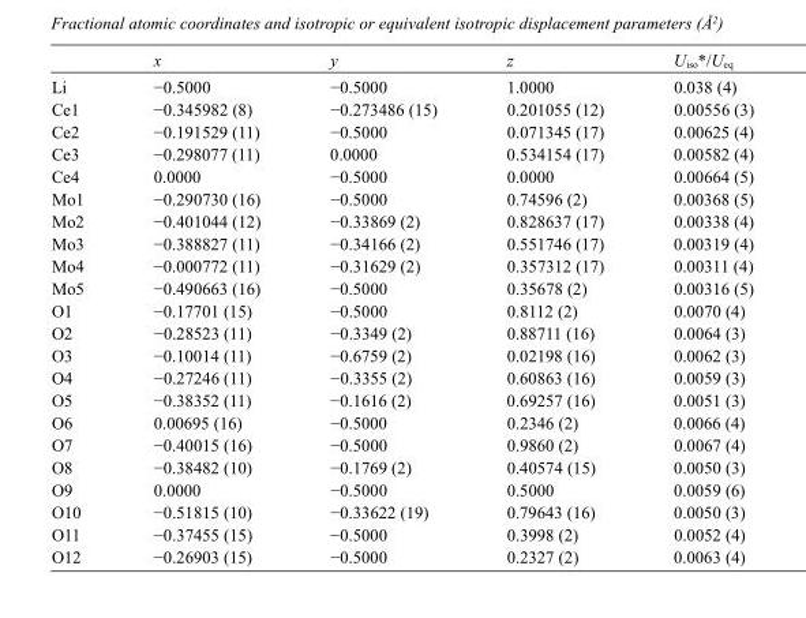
<table><thead><tr><td></td><td>x</td><td>y</td><td>z</td><td>U<sub>iso</sub>*/U<sub>eq</sub></td></tr></thead><tbody><tr><td>Li</td><td>−0.5000</td><td>−0.5000</td><td>1.0000</td><td>0.038 (4)</td></tr><tr><td>Ce1</td><td>−0.345982 (8)</td><td>−0.273486 (15)</td><td>0.201055 (12)</td><td>0.00556 (3)</td></tr><tr><td>Ce2</td><td>−0.191529 (11)</td><td>−0.5000</td><td>0.071345 (17)</td><td>0.00625 (4)</td></tr><tr><td>Ce3</td><td>−0.298077 (11)</td><td>0.0000</td><td>0.534154 (17)</td><td>0.00582 (4)</td></tr><tr><td>Ce4</td><td>0.0000</td><td>−0.5000</td><td>0.0000</td><td>0.00664 (5)</td></tr><tr><td>Mo1</td><td>−0.290730 (16)</td><td>−0.5000</td><td>0.74596 (2)</td><td>0.00368 (5)</td></tr><tr><td>Mo2</td><td>−0.401044 (12)</td><td>−0.33869 (2)</td><td>0.828637 (17)</td><td>0.00338 (4)</td></tr><tr><td>Mo3</td><td>−0.388827 (11)</td><td>−0.34166 (2)</td><td>0.551746 (17)</td><td>0.00319 (4)</td></tr><tr><td>Mo4</td><td>−0.000772 (11)</td><td>−0.31629 (2)</td><td>0.357312 (17)</td><td>0.00311 (4)</td></tr><tr><td>Mo5</td><td>−0.490663 (16)</td><td>−0.5000</td><td>0.35678 (2)</td><td>0.00316 (5)</td></tr><tr><td>O1</td><td>−0.17701 (15)</td><td>−0.5000</td><td>0.8112 (2)</td><td>0.0070 (4)</td></tr><tr><td>O2</td><td>−0.28523 (11)</td><td>−0.3349 (2)</td><td>0.88711 (16)</td><td>0.0064 (3)</td></tr><tr><td>O3</td><td>−0.10014 (11)</td><td>−0.6759 (2)</td><td>0.02198 (16)</td><td>0.0062 (3)</td></tr><tr><td>O4</td><td>−0.27246 (11)</td><td>−0.3355 (2)</td><td>0.60863 (16)</td><td>0.0059 (3)</td></tr><tr><td>O5</td><td>−0.38352 (11)</td><td>−0.1616 (2)</td><td>0.69257 (16)</td><td>0.0051 (3)</td></tr><tr><td>O6</td><td>0.00695 (16)</td><td>−0.5000</td><td>0.2346 (2)</td><td>0.0066 (4)</td></tr><tr><td>O7</td><td>−0.40015 (16)</td><td>−0.5000</td><td>0.9860 (2)</td><td>0.0067 (4)</td></tr><tr><td>O8</td><td>−0.38482 (10)</td><td>−0.1769 (2)</td><td>0.40574 (15)</td><td>0.0050 (3)</td></tr><tr><td>O9</td><td>0.0000</td><td>−0.5000</td><td>0.5000</td><td>0.0059 (6)</td></tr><tr><td>O10</td><td>−0.51815 (10)</td><td>−0.33622 (19)</td><td>0.79643 (16)</td><td>0.0050 (3)</td></tr><tr><td>O11</td><td>−0.37455 (15)</td><td>−0.5000</td><td>0.3998 (2)</td><td>0.0052 (4)</td></tr><tr><td>O12</td><td>−0.26903 (15)</td><td>−0.5000</td><td>0.2327 (2)</td><td>0.0063 (4)</td></tr></tbody></table>